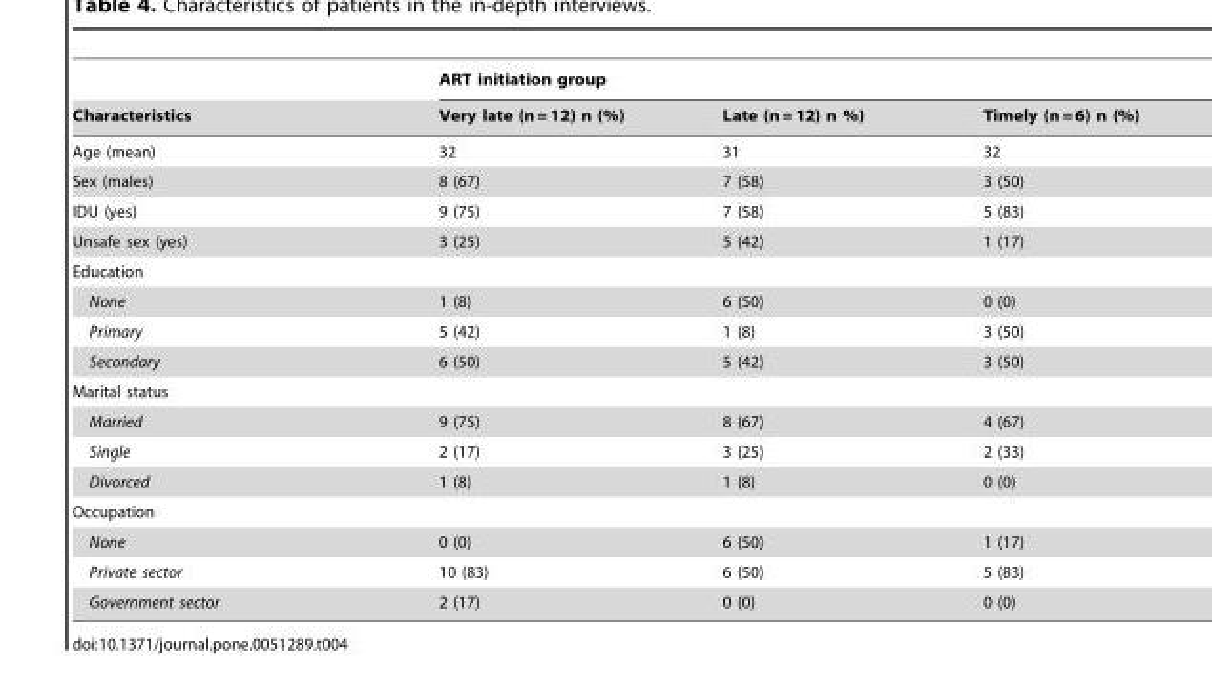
<table><thead><tr><td rowspan="2">Characteristics</td><td colspan="3">ART initiation group</td></tr><tr><td>Very late (n = 12) n (%)</td><td>Late (n = 12) n %)</td><td>Timely (n = 6) n (%)</td></tr></thead><tbody><tr><td>Age (mean)</td><td>32</td><td>31</td><td>32</td></tr><tr><td>Sex (males)</td><td>8 (67)</td><td>7 (58)</td><td>3 (50)</td></tr><tr><td>IDU (yes)</td><td>9 (75)</td><td>7 (58)</td><td>5 (83)</td></tr><tr><td>Unsafe sex (yes)</td><td>3 (25)</td><td>5 (42)</td><td>1 (17)</td></tr><tr><td colspan="4">Education</td></tr><tr><td>None</td><td>1 (8)</td><td>6 (50)</td><td>0 (0)</td></tr><tr><td>Primary</td><td>5 (42)</td><td>1 (8)</td><td>3 (50)</td></tr><tr><td>Secondary</td><td>6 (50)</td><td>5 (42)</td><td>3 (50)</td></tr><tr><td colspan="4">Marital status</td></tr><tr><td>Married</td><td>9 (75)</td><td>8 (67)</td><td>4 (67)</td></tr><tr><td>Single</td><td>2 (17)</td><td>3 (25)</td><td>2 (33)</td></tr><tr><td>Divorced</td><td>1 (8)</td><td>1 (8)</td><td>0 (0)</td></tr><tr><td colspan="4">Occupation</td></tr><tr><td>None</td><td>0 (0)</td><td>6 (50)</td><td>1 (17)</td></tr><tr><td>Private sector</td><td>10 (83)</td><td>6 (50)</td><td>5 (83)</td></tr><tr><td>Government sector</td><td>2 (17)</td><td>0 (0)</td><td>0 (0)</td></tr></tbody></table>